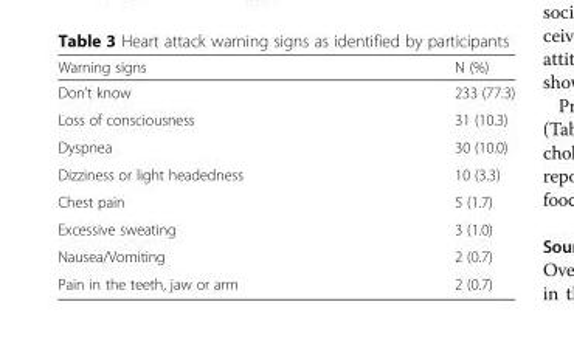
<table><thead><tr><td>Warning signs</td><td>N (%)</td></tr></thead><tbody><tr><td>Don’t know</td><td>233 (77.3)</td></tr><tr><td>Loss of consciousness</td><td>31 (10.3)</td></tr><tr><td>Dyspnea</td><td>30 (10.0)</td></tr><tr><td>Dizziness or light headedness</td><td>10 (3.3)</td></tr><tr><td>Chest pain</td><td>5 (1.7)</td></tr><tr><td>Excessive sweating</td><td>3 (1.0)</td></tr><tr><td>Nausea/Vomiting</td><td>2 (0.7)</td></tr><tr><td>Pain in the teeth, jaw or arm</td><td>2 (0.7)</td></tr></tbody></table>